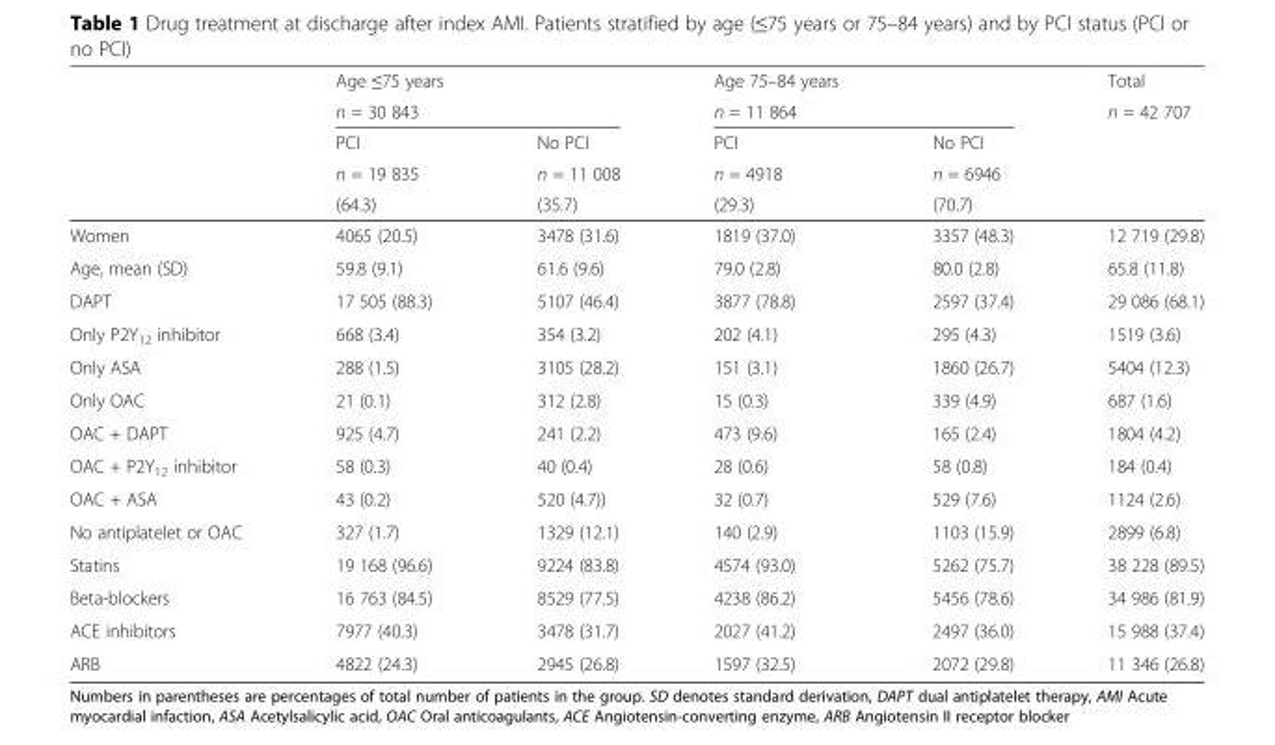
<table><thead><tr><td rowspan="5"></td><td>Age ≤75 years</td><td></td><td>Age 75–84 years</td><td></td><td rowspan="5">Total n = 42 707</td></tr><tr><td colspan="2">n = 30 843</td><td colspan="2">n = 11 864</td></tr><tr><td rowspan="3">PCI n = 19 835 (64.3)</td><td rowspan="3">No PCI n = 11 008 (35.7)</td><td rowspan="3">PCI n = 4918 (29.3)</td><td rowspan="3">No PCI n = 6946 (70.7)</td></tr><tr></tr><tr></tr></thead><tbody><tr><td>Women</td><td>4065 (20.5)</td><td>3478 (31.6)</td><td>1819 (37.0)</td><td>3357 (48.3)</td><td>12 719 (29.8)</td></tr><tr><td>Age, mean (SD)</td><td>59.8 (9.1)</td><td>61.6 (9.6)</td><td>79.0 (2.8)</td><td>80.0 (2.8)</td><td>65.8 (11.8)</td></tr><tr><td>DAPT</td><td>17 505 (88.3)</td><td>5107 (46.4)</td><td>3877 (78.8)</td><td>2597 (37.4)</td><td>29 086 (68.1)</td></tr><tr><td>Only P2Y<sub>12</sub> inhibitor</td><td>668 (3.4)</td><td>354 (3.2)</td><td>202 (4.1)</td><td>295 (4.3)</td><td>1519 (3.6)</td></tr><tr><td>Only ASA</td><td>288 (1.5)</td><td>3105 (28.2)</td><td>151 (3.1)</td><td>1860 (26.7)</td><td>5404 (12.3)</td></tr><tr><td>Only OAC</td><td>21 (0.1)</td><td>312 (2.8)</td><td>15 (0.3)</td><td>339 (4.9)</td><td>687 (1.6)</td></tr><tr><td>OAC + DAPT</td><td>925 (4.7)</td><td>241 (2.2)</td><td>473 (9.6)</td><td>165 (2.4)</td><td>1804 (4.2)</td></tr><tr><td>OAC + P2Y<sub>12</sub> inhibitor</td><td>58 (0.3)</td><td>40 (0.4)</td><td>28 (0.6)</td><td>58 (0.8)</td><td>184 (0.4)</td></tr><tr><td>OAC + ASA</td><td>43 (0.2)</td><td>520 (4.7))</td><td>32 (0.7)</td><td>529 (7.6)</td><td>1124 (2.6)</td></tr><tr><td>No antiplatelet or OAC</td><td>327 (1.7)</td><td>1329 (12.1)</td><td>140 (2.9)</td><td>1103 (15.9)</td><td>2899 (6.8)</td></tr><tr><td>Statins</td><td>19 168 (96.6)</td><td>9224 (83.8)</td><td>4574 (93.0)</td><td>5262 (75.7)</td><td>38 228 (89.5)</td></tr><tr><td>Beta-blockers</td><td>16 763 (84.5)</td><td>8529 (77.5)</td><td>4238 (86.2)</td><td>5456 (78.6)</td><td>34 986 (81.9)</td></tr><tr><td>ACE inhibitors</td><td>7977 (40.3)</td><td>3478 (31.7)</td><td>2027 (41.2)</td><td>2497 (36.0)</td><td>15 988 (37.4)</td></tr><tr><td>ARB</td><td>4822 (24.3)</td><td>2945 (26.8)</td><td>1597 (32.5)</td><td>2072 (29.8)</td><td>11 346 (26.8)</td></tr></tbody></table>